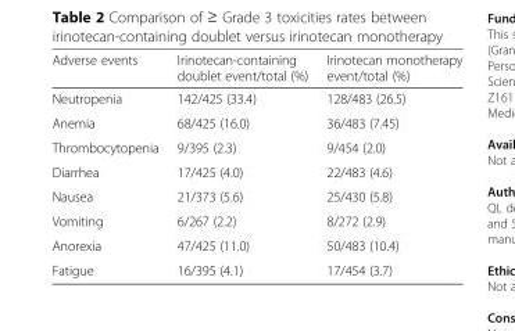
<table><thead><tr><td>Adverse events</td><td>Irinotecan-containing doublet event/total (%)</td><td>Irinotecan monotherapy event/total (%)</td></tr></thead><tbody><tr><td>Neutropenia</td><td>142/425 (33.4)</td><td>128/483 (26.5)</td></tr><tr><td>Anemia</td><td>68/425 (16.0)</td><td>36/483 (7.45)</td></tr><tr><td>Thrombocytopenia</td><td>9/395 (2.3)</td><td>9/454 (2.0)</td></tr><tr><td>Diarrhea</td><td>17/425 (4.0)</td><td>22/483 (4.6)</td></tr><tr><td>Nausea</td><td>21/373 (5.6)</td><td>25/430 (5.8)</td></tr><tr><td>Vomiting</td><td>6/267 (2.2)</td><td>8/272 (2.9)</td></tr><tr><td>Anorexia</td><td>47/425 (11.0)</td><td>50/483 (10.4)</td></tr><tr><td>Fatigue</td><td>16/395 (4.1)</td><td>17/454 (3.7)</td></tr></tbody></table>